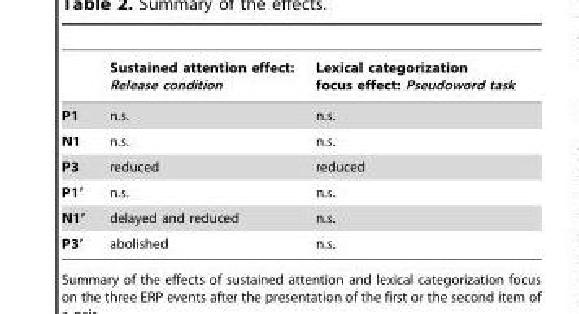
<table><thead><tr><td></td><td>Sustained attention effect: Release condition</td><td>Lexical categorization focus effect: Pseudoword task</td></tr></thead><tbody><tr><td>P1</td><td>n.s.</td><td>n.s.</td></tr><tr><td>N1</td><td>n.s.</td><td>n.s.</td></tr><tr><td>P3</td><td>reduced</td><td>reduced</td></tr><tr><td>P1’</td><td>n.s.</td><td>n.s.</td></tr><tr><td>N1’</td><td>delayed and reduced</td><td>n.s.</td></tr><tr><td>P3’</td><td>abolished</td><td>n.s.</td></tr></tbody></table>